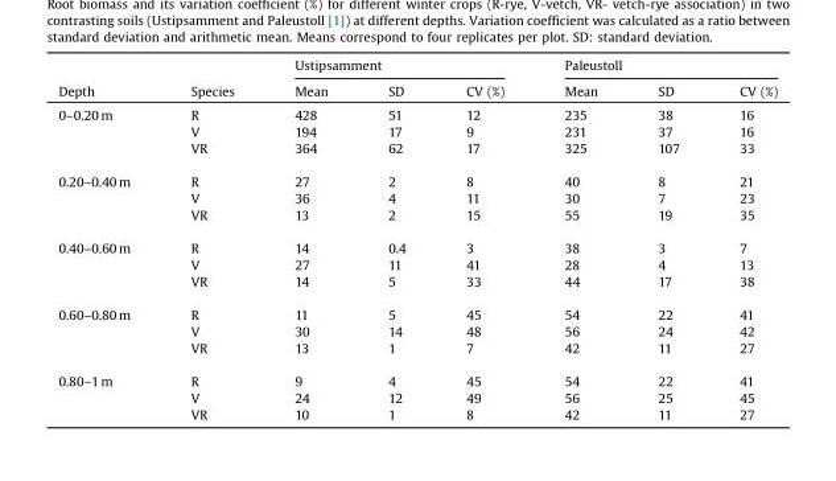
<table><thead><tr><td rowspan="2">Depth</td><td rowspan="2">Species</td><td colspan="3">Ustipsamment</td><td colspan="3">Paleustoll</td></tr><tr><td>Mean</td><td>SD</td><td>CV (%)</td><td>Mean</td><td>SD</td><td>CV (%)</td></tr></thead><tbody><tr><td rowspan="3">0–0.20 m</td><td>R</td><td>428</td><td>51</td><td>12</td><td>235</td><td>38</td><td>16</td></tr><tr><td>V</td><td>194</td><td>17</td><td>9</td><td>231</td><td>37</td><td>16</td></tr><tr><td>VR</td><td>364</td><td>62</td><td>17</td><td>325</td><td>107</td><td>33</td></tr><tr><td rowspan="3">0.20–0.40 m</td><td>R</td><td>27</td><td>2</td><td>8</td><td>40</td><td>8</td><td>21</td></tr><tr><td>V</td><td>36</td><td>4</td><td>11</td><td>30</td><td>7</td><td>23</td></tr><tr><td>VR</td><td>13</td><td>2</td><td>15</td><td>55</td><td>19</td><td>35</td></tr><tr><td rowspan="3">0.40–0.60 m</td><td>R</td><td>14</td><td>0.4</td><td>3</td><td>38</td><td>3</td><td>7</td></tr><tr><td>V</td><td>27</td><td>11</td><td>41</td><td>28</td><td>4</td><td>13</td></tr><tr><td>VR</td><td>14</td><td>5</td><td>33</td><td>44</td><td>17</td><td>38</td></tr><tr><td rowspan="3">0.60–0.80 m</td><td>R</td><td>11</td><td>5</td><td>45</td><td>54</td><td>22</td><td>41</td></tr><tr><td>V</td><td>30</td><td>14</td><td>48</td><td>56</td><td>24</td><td>42</td></tr><tr><td>VR</td><td>13</td><td>1</td><td>7</td><td>42</td><td>11</td><td>27</td></tr><tr><td rowspan="3">0.80–1 m</td><td>R</td><td>9</td><td>4</td><td>45</td><td>54</td><td>22</td><td>41</td></tr><tr><td>V</td><td>24</td><td>12</td><td>49</td><td>56</td><td>25</td><td>45</td></tr><tr><td>VR</td><td>10</td><td>1</td><td>8</td><td>42</td><td>11</td><td>27</td></tr></tbody></table>